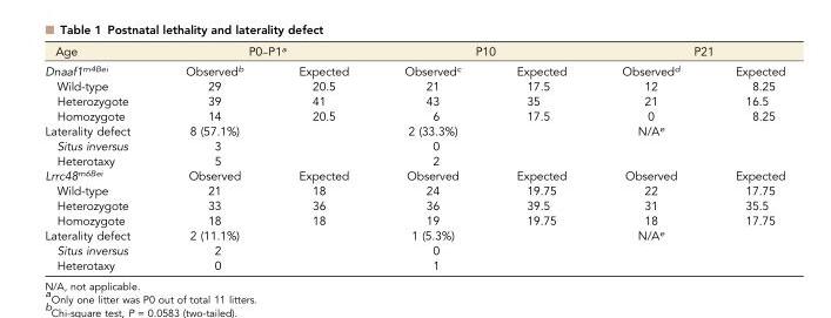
<table><thead><tr><td rowspan="2">Age Dnaaf1<sup>m4Bei</sup></td><td colspan="2">P0–P1<sup>a</sup></td><td colspan="2">P10</td><td colspan="2">P21</td></tr><tr><td>Observed<sup>b</sup></td><td>Expected</td><td>Observed<sup>c</sup></td><td>Expected</td><td>Observed<sup>d</sup></td><td>Expected</td></tr></thead><tbody><tr><td>Wild-type</td><td>29</td><td>20.5</td><td>21</td><td>17.5</td><td>12</td><td>8.25</td></tr><tr><td>Heterozygote</td><td>39</td><td>41</td><td>43</td><td>35</td><td>21</td><td>16.5</td></tr><tr><td>Homozygote</td><td>14</td><td>20.5</td><td>6</td><td>17.5</td><td>0</td><td>8.25</td></tr><tr><td>Laterality defect</td><td>8 (57.1%)</td><td></td><td>2 (33.3%)</td><td></td><td>N/A<sup>e</sup></td><td></td></tr><tr><td>Situs inversus</td><td>3</td><td></td><td>0</td><td></td><td></td><td></td></tr><tr><td>Heterotaxy</td><td>5</td><td></td><td>2</td><td></td><td></td><td></td></tr><tr><td>Lrrc48<sup>m6Bei</sup></td><td>Observed</td><td>Expected</td><td>Observed</td><td>Expected</td><td>Observed</td><td>Expected</td></tr><tr><td>Wild-type</td><td>21</td><td>18</td><td>24</td><td>19.75</td><td>22</td><td>17.75</td></tr><tr><td>Heterozygote</td><td>33</td><td>36</td><td>36</td><td>39.5</td><td>31</td><td>35.5</td></tr><tr><td>Homozygote</td><td>18</td><td>18</td><td>19</td><td>19.75</td><td>18</td><td>17.75</td></tr><tr><td>Laterality defect</td><td>2 (11.1%)</td><td></td><td>1 (5.3%)</td><td></td><td>N/A<sup>e</sup></td><td></td></tr><tr><td>Situs inversus</td><td>2</td><td></td><td>0</td><td></td><td></td><td></td></tr><tr><td>Heterotaxy</td><td>0</td><td></td><td>1</td><td></td><td></td><td></td></tr></tbody></table>